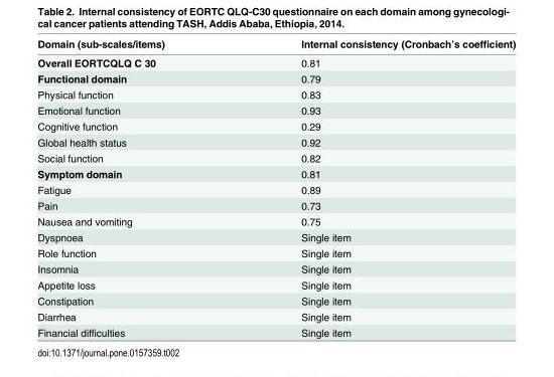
<table><thead><tr><td>Domain (sub-scales/items)</td><td>Internal consistency (Cronbach’s coefficient)</td></tr></thead><tbody><tr><td>Overall EORTCQLQ C 30</td><td>0.81</td></tr><tr><td>Functional domain</td><td>0.79</td></tr><tr><td>Physical function</td><td>0.83</td></tr><tr><td>Emotional function</td><td>0.93</td></tr><tr><td>Cognitive function</td><td>0.29</td></tr><tr><td>Global health status</td><td>0.92</td></tr><tr><td>Social function</td><td>0.82</td></tr><tr><td>Symptom domain</td><td>0.81</td></tr><tr><td>Fatigue</td><td>0.89</td></tr><tr><td>Pain</td><td>0.73</td></tr><tr><td>Nausea and vomiting</td><td>0.75</td></tr><tr><td>Dyspnoea</td><td>Single item</td></tr><tr><td>Role function</td><td>Single item</td></tr><tr><td>Insomnia</td><td>Single item</td></tr><tr><td>Appetite loss</td><td>Single item</td></tr><tr><td>Constipation</td><td>Single item</td></tr><tr><td>Diarrhea</td><td>Single item</td></tr><tr><td>Financial difficulties</td><td>Single item</td></tr></tbody></table>